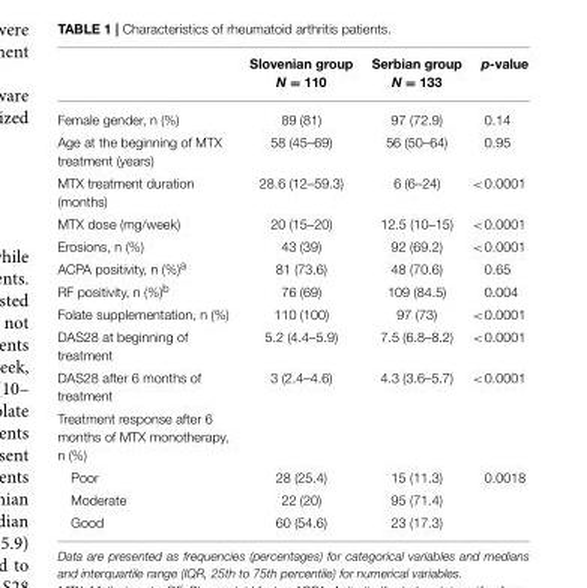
<table><thead><tr><td></td><td>Slovenian group N = 110</td><td>Serbian group N = 133</td><td>p-value</td></tr></thead><tbody><tr><td>Female gender, n (%)</td><td>89 (81)</td><td>97 (72.9)</td><td>0.14</td></tr><tr><td>Age at the beginning of MTX treatment (years)</td><td>58 (45–69)</td><td>56 (50–64)</td><td>0.95</td></tr><tr><td>MTX treatment duration (months)</td><td>28.6 (12–59.3)</td><td>6 (6–24)</td><td>&lt;0.0001</td></tr><tr><td>MTX dose (mg/week)</td><td>20 (15–20)</td><td>12.5 (10–15)</td><td>&lt;0.0001</td></tr><tr><td>Erosions, n (%)</td><td>43 (39)</td><td>92 (69.2)</td><td>&lt;0.0001</td></tr><tr><td>ACPA positivity, n (%)<sup>a</sup></td><td>81 (73.6)</td><td>48 (70.6)</td><td>0.65</td></tr><tr><td>RF positivity, n (%)<sup>b</sup></td><td>76 (69)</td><td>109 (84.5)</td><td>0.004</td></tr><tr><td>Folate supplementation, n (%)</td><td>110 (100)</td><td>97 (73)</td><td>&lt;0.0001</td></tr><tr><td>DAS28 at beginning of treatment</td><td>5.2 (4.4–5.9)</td><td>7.5 (6.8–8.2)</td><td>&lt;0.0001</td></tr><tr><td>DAS28 after 6 months of treatment</td><td>3 (2.4–4.6)</td><td>4.3 (3.6–5.7)</td><td>&lt;0.0001</td></tr><tr><td colspan="4">Treatment response after 6 months of MTX monotherapy, n (%)</td></tr><tr><td>Poor</td><td>28 (25.4)</td><td>15 (11.3)</td><td>0.0018</td></tr><tr><td>Moderate</td><td>22 (20)</td><td>95 (71.4)</td><td></td></tr><tr><td>Good</td><td>60 (54.6)</td><td>23 (17.3)</td><td></td></tr></tbody></table>